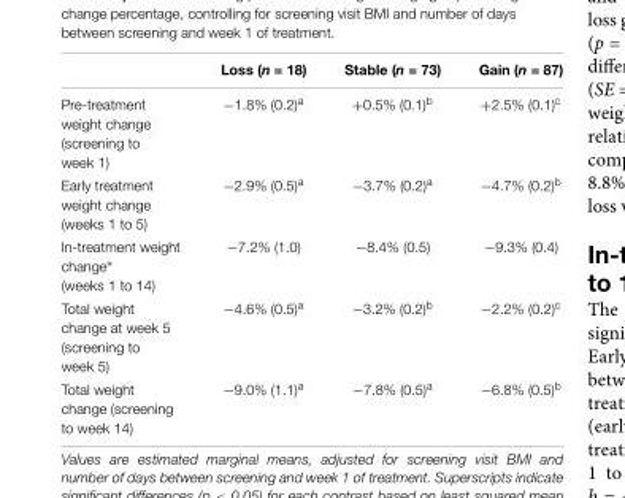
<table><thead><tr><td></td><td>Loss (n = 18)</td><td>Stable (n = 73)</td><td>Gain (n = 87)</td></tr></thead><tbody><tr><td>Pre-treatment weight change (screening to week 1)</td><td>−1.8% (0.2)<sup>a</sup></td><td>+0.5% (0.1)<sup>b</sup></td><td>+2.5% (0.1)<sup>c</sup></td></tr><tr><td>Early treatment weight change (weeks 1 to 5)</td><td>−2.9% (0.5)<sup>a</sup></td><td>−3.7% (0.2)<sup>a</sup></td><td>−4.7% (0.2)<sup>b</sup></td></tr><tr><td>In-treatment weight change∗ (weeks 1 to 14)</td><td>−7.2% (1.0)</td><td>−8.4% (0.5)</td><td>−9.3% (0.4)</td></tr><tr><td>Total weight change at week 5 (screening to week 5)</td><td>−4.6% (0.5)<sup>a</sup></td><td>−3.2% (0.2)<sup>b</sup></td><td>−2.2% (0.2)<sup>c</sup></td></tr><tr><td>Total weight change (screening to week 14)</td><td>−9.0% (1.1)<sup>a</sup></td><td>−7.8% (0.5)<sup>a</sup></td><td>−6.8% (0.5)<sup>b</sup></td></tr></tbody></table>